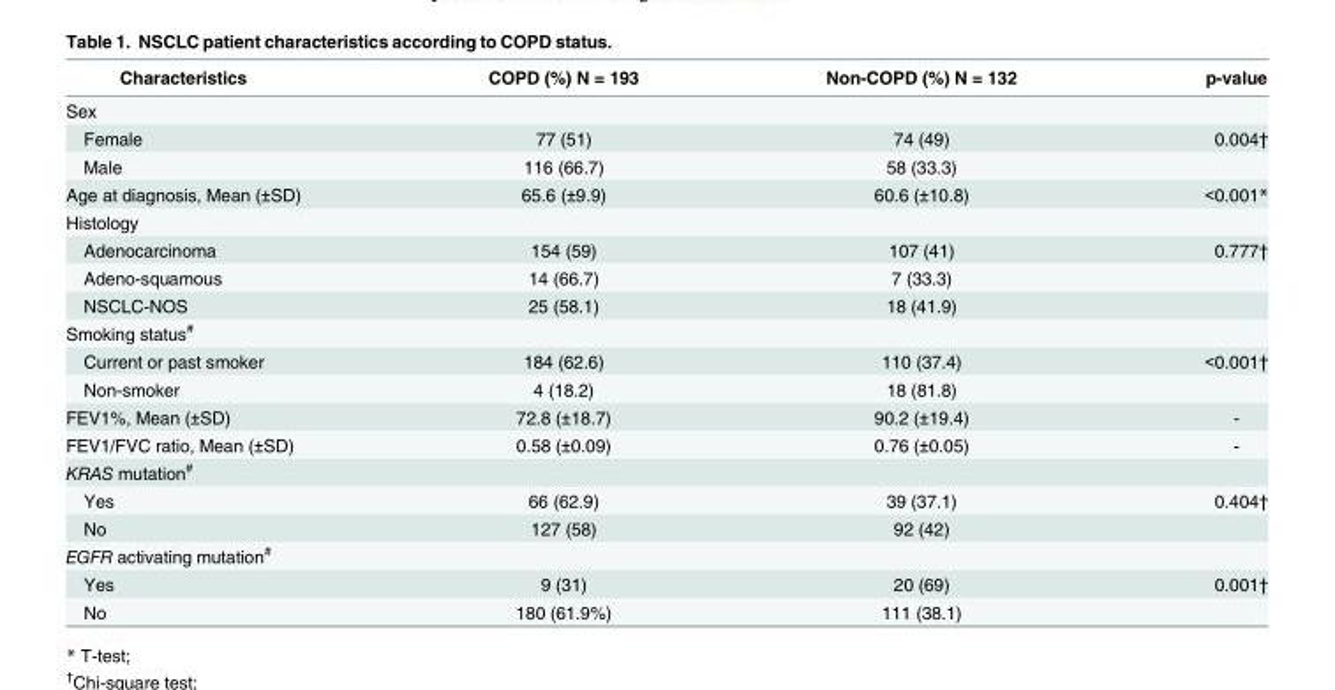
<table><thead><tr><td>Characteristics</td><td>COPD (%) N = 193</td><td>Non-COPD (%) N = 132</td><td>p-value</td></tr></thead><tbody><tr><td colspan="4">Sex</td></tr><tr><td>Female</td><td>77 (51)</td><td>74 (49)</td><td>0.004†</td></tr><tr><td>Male</td><td>116 (66.7)</td><td>58 (33.3)</td><td></td></tr><tr><td>Age at diagnosis, Mean (±SD)</td><td>65.6 (±9.9)</td><td>60.6 (±10.8)</td><td>&lt;0.001*</td></tr><tr><td colspan="4">Histology</td></tr><tr><td>Adenocarcinoma</td><td>154 (59)</td><td>107 (41)</td><td>0.777†</td></tr><tr><td>Adeno-squamous</td><td>14 (66.7)</td><td>7 (33.3)</td><td></td></tr><tr><td>NSCLC-NOS</td><td>25 (58.1)</td><td>18 (41.9)</td><td></td></tr><tr><td colspan="4">Smoking status<sup>#</sup></td></tr><tr><td>Current or past smoker</td><td>184 (62.6)</td><td>110 (37.4)</td><td>&lt;0.001†</td></tr><tr><td>Non-smoker</td><td>4 (18.2)</td><td>18 (81.8)</td><td></td></tr><tr><td>FEV1%, Mean (±SD)</td><td>72.8 (±18.7)</td><td>90.2 (±19.4)</td><td>-</td></tr><tr><td>FEV1/FVC ratio, Mean (±SD)</td><td>0.58 (±0.09)</td><td>0.76 (±0.05)</td><td>-</td></tr><tr><td colspan="4">KRAS mutation<sup>#</sup></td></tr><tr><td>Yes</td><td>66 (62.9)</td><td>39 (37.1)</td><td>0.404†</td></tr><tr><td>No</td><td>127 (58)</td><td>92 (42)</td><td></td></tr><tr><td colspan="4">EGFR activating mutation<sup>#</sup></td></tr><tr><td>Yes</td><td>9 (31)</td><td>20 (69)</td><td>0.001†</td></tr><tr><td>No</td><td>180 (61.9%)</td><td>111 (38.1)</td><td></td></tr></tbody></table>